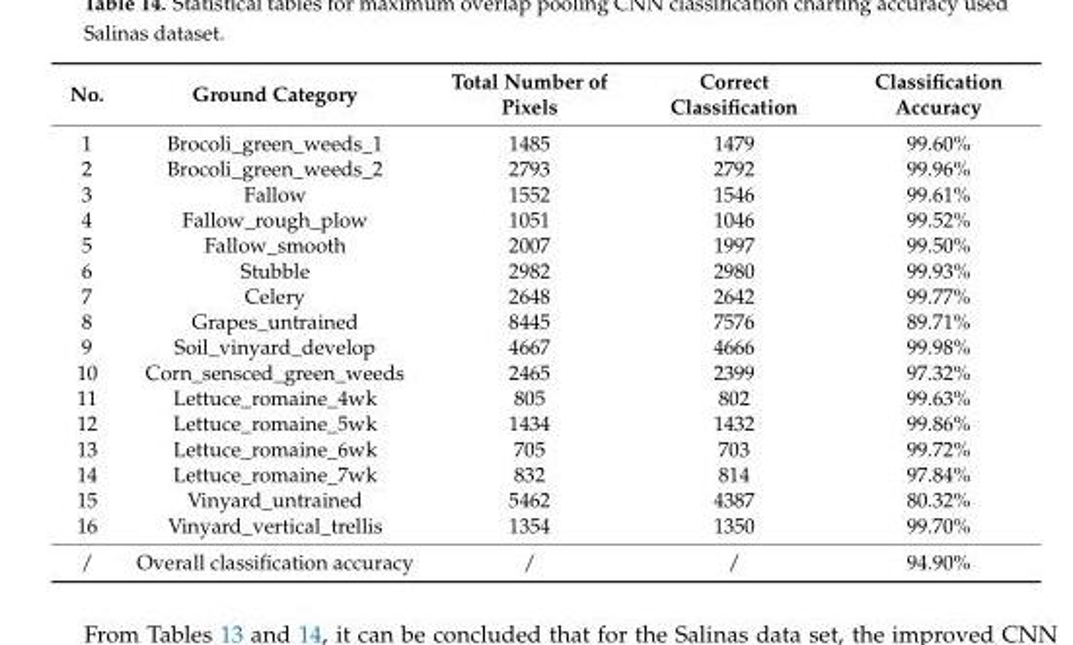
<table><thead><tr><td>No.</td><td>Ground Category</td><td>Total Number of Pixels</td><td>Correct Classification</td><td>Classification Accuracy</td></tr></thead><tbody><tr><td>1</td><td>Brocoli_green_weeds_1</td><td>1485</td><td>1479</td><td>99.60%</td></tr><tr><td>2</td><td>Brocoli_green_weeds_2</td><td>2793</td><td>2792</td><td>99.96%</td></tr><tr><td>3</td><td>Fallow</td><td>1552</td><td>1546</td><td>99.61%</td></tr><tr><td>4</td><td>Fallow_rough_plow</td><td>1051</td><td>1046</td><td>99.52%</td></tr><tr><td>5</td><td>Fallow_smooth</td><td>2007</td><td>1997</td><td>99.50%</td></tr><tr><td>6</td><td>Stubble</td><td>2982</td><td>2980</td><td>99.93%</td></tr><tr><td>7</td><td>Celery</td><td>2648</td><td>2642</td><td>99.77%</td></tr><tr><td>8</td><td>Grapes_untrained</td><td>8445</td><td>7576</td><td>89.71%</td></tr><tr><td>9</td><td>Soil_vinyard_develop</td><td>4667</td><td>4666</td><td>99.98%</td></tr><tr><td>10</td><td>Corn_sensced_green_weeds</td><td>2465</td><td>2399</td><td>97.32%</td></tr><tr><td>11</td><td>Lettuce_romaine_4wk</td><td>805</td><td>802</td><td>99.63%</td></tr><tr><td>12</td><td>Lettuce_romaine_5wk</td><td>1434</td><td>1432</td><td>99.86%</td></tr><tr><td>13</td><td>Lettuce_romaine_6wk</td><td>705</td><td>703</td><td>99.72%</td></tr><tr><td>14</td><td>Lettuce_romaine_7wk</td><td>832</td><td>814</td><td>97.84%</td></tr><tr><td>15</td><td>Vinyard_untrained</td><td>5462</td><td>4387</td><td>80.32%</td></tr><tr><td>16</td><td>Vinyard_vertical_trellis</td><td>1354</td><td>1350</td><td>99.70%</td></tr><tr><td>/</td><td>Overall classification accuracy</td><td>/</td><td>/</td><td>94.90%</td></tr></tbody></table>